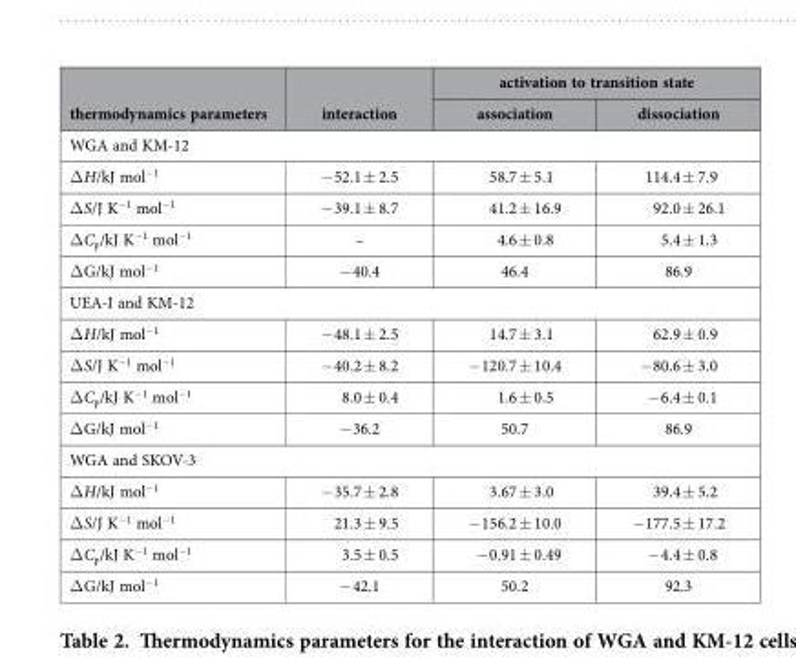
<table><thead><tr><td rowspan="2">thermodynamics parameters</td><td rowspan="2">interaction</td><td colspan="2">activation to transition state</td></tr><tr><td>association</td><td>dissociation</td></tr></thead><tbody><tr><td colspan="4">WGA and KM-12</td></tr><tr><td>Δ H/kJ mol<sup>−1</sup></td><td>− 52.1 ± 2.5</td><td>58.7 ± 5.1</td><td>114.4 ± 7.9</td></tr><tr><td>Δ S/J K<sup>−1</sup> mol<sup>−1</sup></td><td>− 39.1 ± 8.7</td><td>41.2 ± 16.9</td><td>92.0 ± 26.1</td></tr><tr><td>Δ C<sub>p</sub>/kJ K<sup>−1</sup> mol<sup>−1</sup></td><td>–</td><td>4.6 ± 0.8</td><td>5.4 ± 1.3</td></tr><tr><td>Δ G/kJ mol<sup>−1</sup></td><td>− 40.4</td><td>46.4</td><td>86.9</td></tr><tr><td colspan="4">UEA-I and KM-12</td></tr><tr><td>Δ H/kJ mol<sup>−1</sup></td><td>− 48.1 ± 2.5</td><td>14.7 ± 3.1</td><td>62.9 ± 0.9</td></tr><tr><td>Δ S/J K<sup>−1</sup> mol<sup>−1</sup></td><td>− 40.2 ± 8.2</td><td>− 120.7 ± 10.4</td><td>− 80.6 ± 3.0</td></tr><tr><td>Δ C<sub>p</sub>/kJ K<sup>−1</sup> mol<sup>−1</sup></td><td>8.0 ± 0.4</td><td>1.6 ± 0.5</td><td>− 6.4 ± 0.1</td></tr><tr><td>Δ G/kJ mol<sup>−1</sup></td><td>− 36.2</td><td>50.7</td><td>86.9</td></tr><tr><td colspan="4">WGA and SKOV-3</td></tr><tr><td>Δ H/kJ mol<sup>−1</sup></td><td>− 35.7 ± 2.8</td><td>3.67 ± 3.0</td><td>39.4 ± 5.2</td></tr><tr><td>Δ S/J K<sup>−1</sup> mol<sup>−1</sup></td><td>21.3 ± 9.5</td><td>− 156.2 ± 10.0</td><td>− 177.5 ± 17.2</td></tr><tr><td>Δ C<sub>p</sub>/kJ K<sup>−1</sup> mol<sup>−1</sup></td><td>3.5 ± 0.5</td><td>− 0.91 ± 0.49</td><td>− 4.4 ± 0.8</td></tr><tr><td>Δ G/kJ mol<sup>−1</sup></td><td>− 42.1</td><td>50.2</td><td>92.3</td></tr></tbody></table>